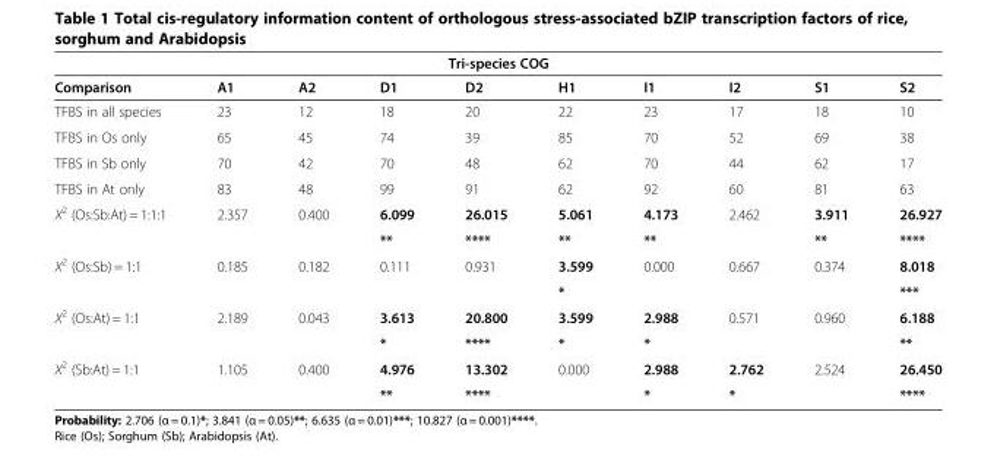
<table><thead><tr><td colspan="10">Tri-species COG</td></tr><tr><td>Comparison</td><td>A1</td><td>A2</td><td>D1</td><td>D2</td><td>H1</td><td>I1</td><td>I2</td><td>S1</td><td>S2</td></tr></thead><tbody><tr><td>TFBS in all species</td><td>23</td><td>12</td><td>18</td><td>20</td><td>22</td><td>23</td><td>17</td><td>18</td><td>10</td></tr><tr><td>TFBS in Os only</td><td>65</td><td>45</td><td>74</td><td>39</td><td>85</td><td>70</td><td>52</td><td>69</td><td>38</td></tr><tr><td>TFBS in Sb only</td><td>70</td><td>42</td><td>70</td><td>48</td><td>62</td><td>70</td><td>44</td><td>62</td><td>17</td></tr><tr><td>TFBS in At only</td><td>83</td><td>48</td><td>99</td><td>91</td><td>62</td><td>92</td><td>60</td><td>81</td><td>63</td></tr><tr><td rowspan="2">X<sup>2</sup> (Os:Sb:At) = 1:1:1</td><td>2.357</td><td>0.400</td><td>6.099</td><td>26.015</td><td>5.061</td><td>4.173</td><td>2.462</td><td>3.911</td><td>26.927</td></tr><tr><td></td><td></td><td>**</td><td>****</td><td>**</td><td>**</td><td></td><td>**</td><td>****</td></tr><tr><td rowspan="2">X<sup>2</sup> (Os:Sb) = 1:1</td><td>0.185</td><td>0.182</td><td>0.111</td><td>0.931</td><td>3.599</td><td>0.000</td><td>0.667</td><td>0.374</td><td>8.018</td></tr><tr><td></td><td></td><td></td><td></td><td>*</td><td></td><td></td><td></td><td>***</td></tr><tr><td rowspan="2">X<sup>2</sup> (Os:At) = 1:1</td><td>2.189</td><td>0.043</td><td>3.613</td><td>20.800</td><td>3.599</td><td>2.988</td><td>0.571</td><td>0.960</td><td>6.188</td></tr><tr><td></td><td></td><td>*</td><td>****</td><td>*</td><td>*</td><td></td><td></td><td>**</td></tr><tr><td rowspan="2">X<sup>2</sup> (Sb:At) = 1:1</td><td>1.105</td><td>0.400</td><td>4.976</td><td>13.302</td><td>0.000</td><td>2.988</td><td>2.762</td><td>2.524</td><td>26.450</td></tr><tr><td></td><td></td><td>**</td><td>****</td><td></td><td>*</td><td>*</td><td></td><td>****</td></tr></tbody></table>